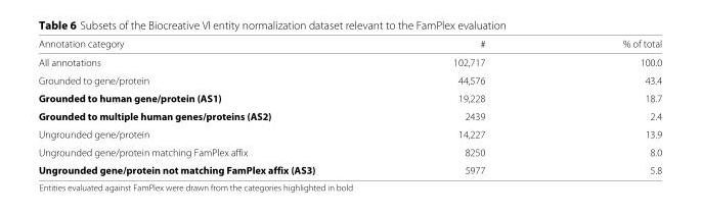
<table><thead><tr><td>Annotation category</td><td>#</td><td>% of total</td></tr></thead><tbody><tr><td>All annotations</td><td>102,717</td><td>100.0</td></tr><tr><td>Grounded to gene/protein</td><td>44,576</td><td>43.4</td></tr><tr><td>Grounded to human gene/protein (AS1)</td><td>19,228</td><td>18.7</td></tr><tr><td>Grounded to multiple human genes/proteins (AS2)</td><td>2439</td><td>2.4</td></tr><tr><td>Ungrounded gene/protein</td><td>14,227</td><td>13.9</td></tr><tr><td>Ungrounded gene/protein matching FamPlex affix</td><td>8250</td><td>8.0</td></tr><tr><td>Ungrounded gene/protein not matching FamPlex affix (AS3)</td><td>5977</td><td>5.8</td></tr></tbody></table>